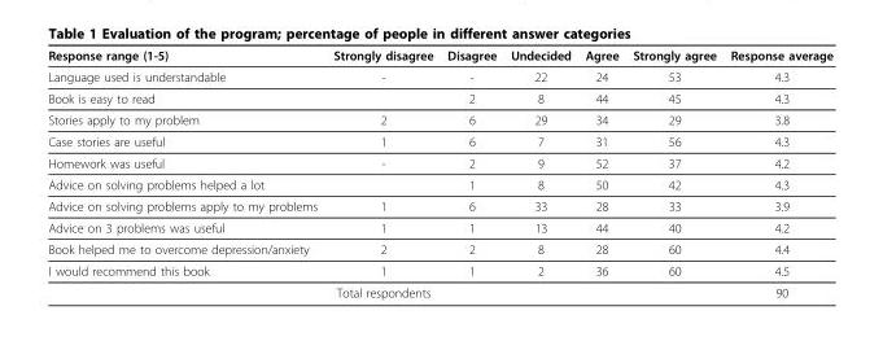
<table><thead><tr><td>Response range (1-5)</td><td>Strongly disagree</td><td>Disagree</td><td>Undecided</td><td>Agree</td><td>Strongly agree</td><td>Response average</td></tr></thead><tbody><tr><td>Language used is understandable</td><td>-</td><td>-</td><td>22</td><td>24</td><td>53</td><td>4.3</td></tr><tr><td>Book is easy to read</td><td></td><td>2</td><td>8</td><td>44</td><td>45</td><td>4.3</td></tr><tr><td>Stories apply to my problem</td><td>2</td><td>6</td><td>29</td><td>34</td><td>29</td><td>3.8</td></tr><tr><td>Case stories are useful</td><td>1</td><td>6</td><td>7</td><td>31</td><td>56</td><td>4.3</td></tr><tr><td>Homework was useful</td><td>-</td><td>2</td><td>9</td><td>52</td><td>37</td><td>4.2</td></tr><tr><td>Advice on solving problems helped a lot</td><td></td><td>1</td><td>8</td><td>50</td><td>42</td><td>4.3</td></tr><tr><td>Advice on solving problems apply to my problems</td><td>1</td><td>6</td><td>33</td><td>28</td><td>33</td><td>3.9</td></tr><tr><td>Advice on 3 problems was useful</td><td>1</td><td>1</td><td>13</td><td>44</td><td>40</td><td>4.2</td></tr><tr><td>Book helped me to overcome depression/anxiety</td><td>2</td><td>2</td><td>8</td><td>28</td><td>60</td><td>4.4</td></tr><tr><td>I would recommend this book</td><td>1</td><td>1</td><td>2</td><td>36</td><td>60</td><td>4.5</td></tr><tr><td colspan="6">Total respondents</td><td>90</td></tr></tbody></table>